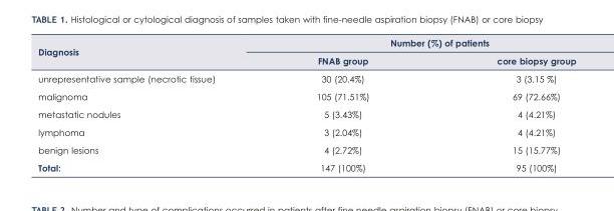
<table><thead><tr><td rowspan="2">Diagnosis</td><td colspan="2">Number (%) of patients</td></tr><tr><td>FNAB group</td><td>core biopsy group</td></tr></thead><tbody><tr><td>unrepresentative sample (necrotic tissue)</td><td>30 (20.4%)</td><td>3 (3.15 %)</td></tr><tr><td>malignoma</td><td>105 (71.51%)</td><td>69 (72.66%)</td></tr><tr><td>metastatic nodules</td><td>5 (3.43%)</td><td>4 (4.21%)</td></tr><tr><td>lymphoma</td><td>3 (2.04%)</td><td>4 (4.21%)</td></tr><tr><td>benign lesions</td><td>4 (2.72%)</td><td>15 (15.77%)</td></tr><tr><td>Total:</td><td>147 (100%)</td><td>95 (100%)</td></tr></tbody></table>